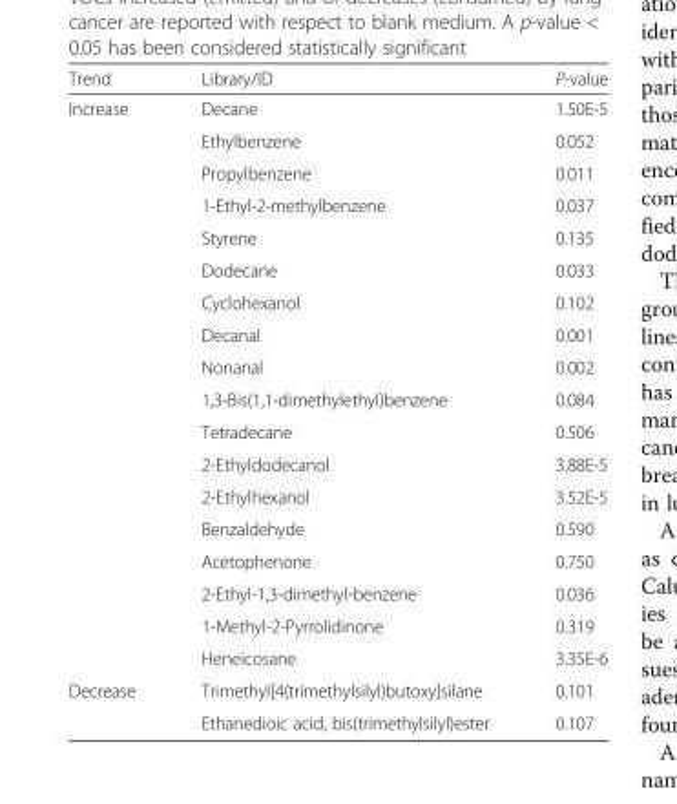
<table><thead><tr><td>Trend</td><td>Library/ID</td><td>P-value</td></tr></thead><tbody><tr><td rowspan="18">Increase</td><td>Decane</td><td>1.50E-5</td></tr><tr><td>Ethylbenzene</td><td>0.052</td></tr><tr><td>Propylbenzene</td><td>0.011</td></tr><tr><td>1-Ethyl-2-methylbenzene</td><td>0.037</td></tr><tr><td>Styrene</td><td>0.135</td></tr><tr><td>Dodecane</td><td>0.033</td></tr><tr><td>Cyclohexanol</td><td>0.102</td></tr><tr><td>Decanal</td><td>0.001</td></tr><tr><td>Nonanal</td><td>0.002</td></tr><tr><td>1,3-Bis(1,1-dimethylethyl)benzene</td><td>0.084</td></tr><tr><td>Tetradecane</td><td>0.506</td></tr><tr><td>2-Ethyldodecanol</td><td>3.88E-5</td></tr><tr><td>2-Ethylhexanol</td><td>3.52E-5</td></tr><tr><td>Benzaldehyde</td><td>0.590</td></tr><tr><td>Acetophenone</td><td>0.750</td></tr><tr><td>2-Ethyl-1,3-dimethyl-benzene</td><td>0.036</td></tr><tr><td>1-Methyl-2-Pyrrolidinone</td><td>0.319</td></tr><tr><td>Heneicosane</td><td>3.35E-6</td></tr><tr><td rowspan="2">Decrease</td><td>Trimethyl[4(trimethylsilyl)butoxy]silane</td><td>0.101</td></tr><tr><td>Ethanedioic acid, bis(trimethylsilyl)ester</td><td>0.107</td></tr></tbody></table>